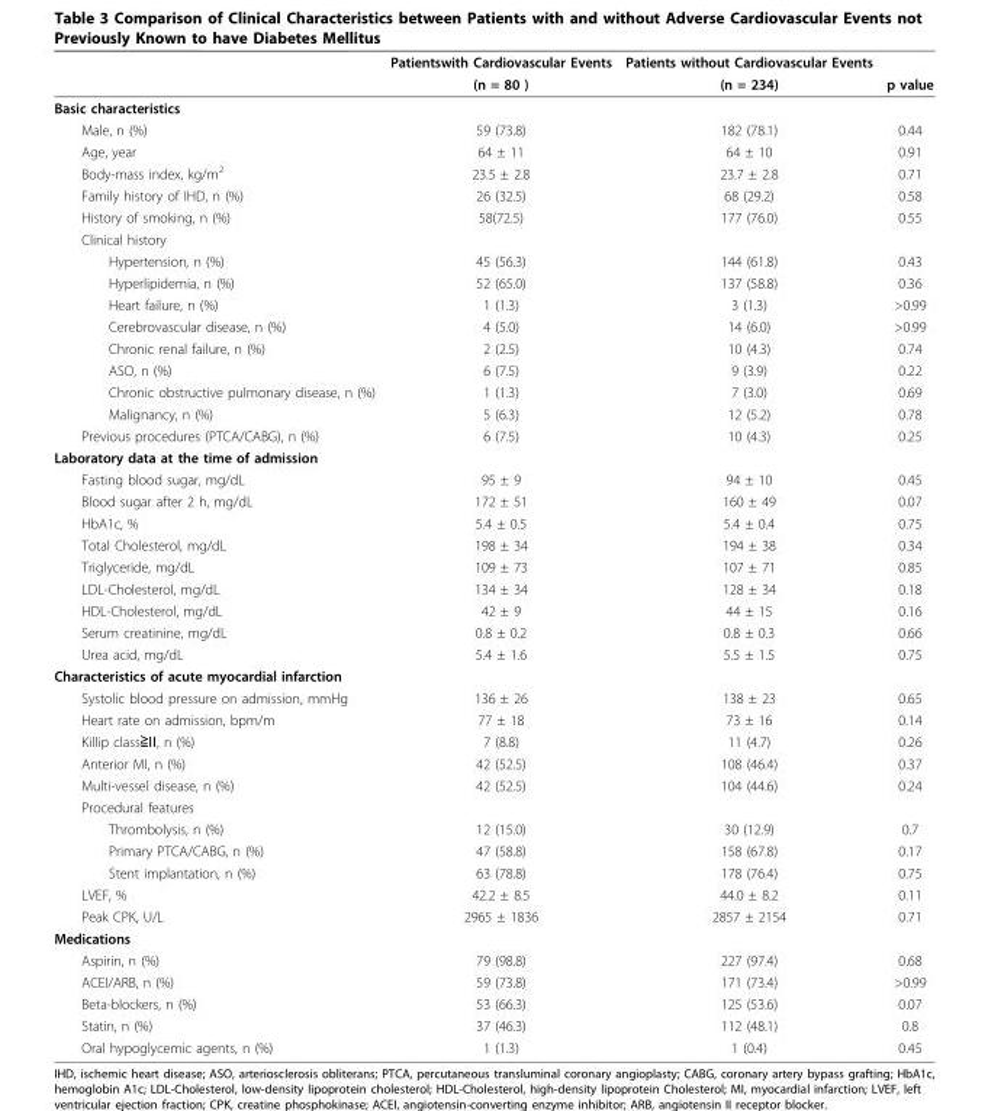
<table><thead><tr><td rowspan="2"></td><td rowspan="2">Patientswith Cardiovascular Events (n = 80 )</td><td rowspan="2">Patients without Cardiovascular Events (n = 234)</td><td rowspan="2">p value</td></tr><tr></tr></thead><tbody><tr><td colspan="4">Basic characteristics</td></tr><tr><td>Male, n (%)</td><td>59 (73.8)</td><td>182 (78.1)</td><td>0.44</td></tr><tr><td>Age, year</td><td>64 ± 11</td><td>64 ± 10</td><td>0.91</td></tr><tr><td>Body-mass index, kg/m<sup>2</sup></td><td>23.5 ± 2.8</td><td>23.7 ± 2.8</td><td>0.71</td></tr><tr><td>Family history of IHD, n (%)</td><td>26 (32.5)</td><td>68 (29.2)</td><td>0.58</td></tr><tr><td>History of smoking, n (%)</td><td>58(72.5)</td><td>177 (76.0)</td><td>0.55</td></tr><tr><td colspan="4">Clinical history</td></tr><tr><td>Hypertension, n (%)</td><td>45 (56.3)</td><td>144 (61.8)</td><td>0.43</td></tr><tr><td>Hyperlipidemia, n (%)</td><td>52 (65.0)</td><td>137 (58.8)</td><td>0.36</td></tr><tr><td>Heart failure, n (%)</td><td>1 (1.3)</td><td>3 (1.3)</td><td>&gt;0.99</td></tr><tr><td>Cerebrovascular disease, n (%)</td><td>4 (5.0)</td><td>14 (6.0)</td><td>&gt;0.99</td></tr><tr><td>Chronic renal failure, n (%)</td><td>2 (2.5)</td><td>10 (4.3)</td><td>0.74</td></tr><tr><td>ASO, n (%)</td><td>6 (7.5)</td><td>9 (3.9)</td><td>0.22</td></tr><tr><td>Chronic obstructive pulmonary disease, n (%)</td><td>1 (1.3)</td><td>7 (3.0)</td><td>0.69</td></tr><tr><td>Malignancy, n (%)</td><td>5 (6.3)</td><td>12 (5.2)</td><td>0.78</td></tr><tr><td>Previous procedures (PTCA/CABG), n (%)</td><td>6 (7.5)</td><td>10 (4.3)</td><td>0.25</td></tr><tr><td colspan="4">Laboratory data at the time of admission</td></tr><tr><td>Fasting blood sugar, mg/dL</td><td>95 ± 9</td><td>94 ± 10</td><td>0.45</td></tr><tr><td>Blood sugar after 2 h, mg/dL</td><td>172 ± 51</td><td>160 ± 49</td><td>0.07</td></tr><tr><td>HbA1c, %</td><td>5.4 ± 0.5</td><td>5.4 ± 0.4</td><td>0.75</td></tr><tr><td>Total Cholesterol, mg/dL</td><td>198 ± 34</td><td>194 ± 38</td><td>0.34</td></tr><tr><td>Triglyceride, mg/dL</td><td>109 ± 73</td><td>107 ± 71</td><td>0.85</td></tr><tr><td>LDL-Cholesterol, mg/dL</td><td>134 ± 34</td><td>128 ± 34</td><td>0.18</td></tr><tr><td>HDL-Cholesterol, mg/dL</td><td>42 ± 9</td><td>44 ± 15</td><td>0.16</td></tr><tr><td>Serum creatinine, mg/dL</td><td>0.8 ± 0.2</td><td>0.8 ± 0.3</td><td>0.66</td></tr><tr><td>Urea acid, mg/dL</td><td>5.4 ± 1.6</td><td>5.5 ± 1.5</td><td>0.75</td></tr><tr><td colspan="4">Characteristics of acute myocardial infarction</td></tr><tr><td>Systolic blood pressure on admission, mmHg</td><td>136 ± 26</td><td>138 ± 23</td><td>0.65</td></tr><tr><td>Heart rate on admission, bpm/m</td><td>77 ± 18</td><td>73 ± 16</td><td>0.14</td></tr><tr><td>Killip class≧Ⅱ, n (%)</td><td>7 (8.8)</td><td>11 (4.7)</td><td>0.26</td></tr><tr><td>Anterior MI, n (%)</td><td>42 (52.5)</td><td>108 (46.4)</td><td>0.37</td></tr><tr><td>Multi-vessel disease, n (%)</td><td>42 (52.5)</td><td>104 (44.6)</td><td>0.24</td></tr><tr><td colspan="4">Procedural features</td></tr><tr><td>Thrombolysis, n (%)</td><td>12 (15.0)</td><td>30 (12.9)</td><td>0.7</td></tr><tr><td>Primary PTCA/CABG, n (%)</td><td>47 (58.8)</td><td>158 (67.8)</td><td>0.17</td></tr><tr><td>Stent implantation, n (%)</td><td>63 (78.8)</td><td>178 (76.4)</td><td>0.75</td></tr><tr><td>LVEF, %</td><td>42.2 ± 8.5</td><td>44.0 ± 8.2</td><td>0.11</td></tr><tr><td>Peak CPK, U/L</td><td>2965 ± 1836</td><td>2857 ± 2154</td><td>0.71</td></tr><tr><td colspan="4">Medications</td></tr><tr><td>Aspirin, n (%)</td><td>79 (98.8)</td><td>227 (97.4)</td><td>0.68</td></tr><tr><td>ACEI/ARB, n (%)</td><td>59 (73.8)</td><td>171 (73.4)</td><td>&gt;0.99</td></tr><tr><td>Beta-blockers, n (%)</td><td>53 (66.3)</td><td>125 (53.6)</td><td>0.07</td></tr><tr><td>Statin, n (%)</td><td>37 (46.3)</td><td>112 (48.1)</td><td>0.8</td></tr><tr><td>Oral hypoglycemic agents, n (%)</td><td>1 (1.3)</td><td>1 (0.4)</td><td>0.45</td></tr></tbody></table>